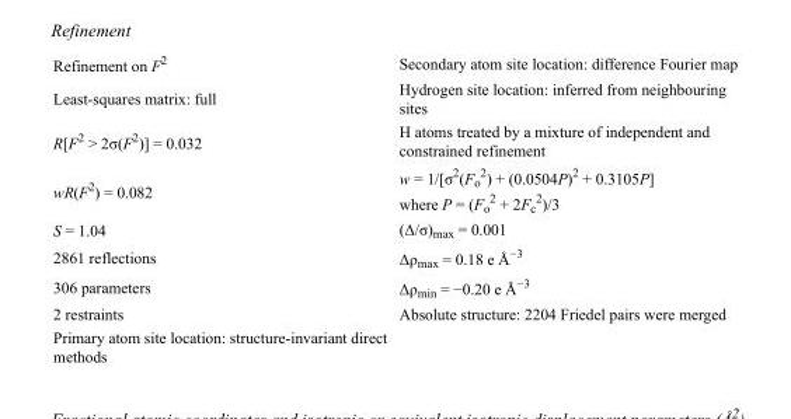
<table><tbody><tr><td>Refinement on F<sup>2</sup></td><td>Secondary atom site location: difference Fourier map</td></tr><tr><td>Least-squares matrix: full</td><td>Hydrogen site location: inferred from neighbouring sites</td></tr><tr><td>R[F<sup>2</sup> &gt; 2σ(F<sup>2</sup>)] = 0.032</td><td>H atoms treated by a mixture of independent and constrained refinement</td></tr><tr><td>wR(F<sup>2</sup>) = 0.082</td><td>w = 1/[σ<sup>2</sup>(F<sub>o</sub> <sup>2</sup>) + (0.0504P)<sup>2</sup> + 0.3105P] where P = (F<sub>o</sub> <sup>2</sup> + 2F<sub>c</sub> <sup>2</sup>)/3</td></tr><tr><td>S = 1.04</td><td>(Δ/σ)<sub>max</sub> = 0.001</td></tr><tr><td>2861 reflections</td><td>Δρ<sub>max</sub> = 0.18 e Å<sup>−3</sup></td></tr><tr><td>306 parameters</td><td>Δρ<sub>min</sub> = −0.20 e Å<sup>−3</sup></td></tr><tr><td>2 restraints</td><td>Absolute structure: 2204 Friedel pairs were merged</td></tr><tr><td>Primary atom site location: structure-invariant direct methods</td><td></td></tr></tbody></table>